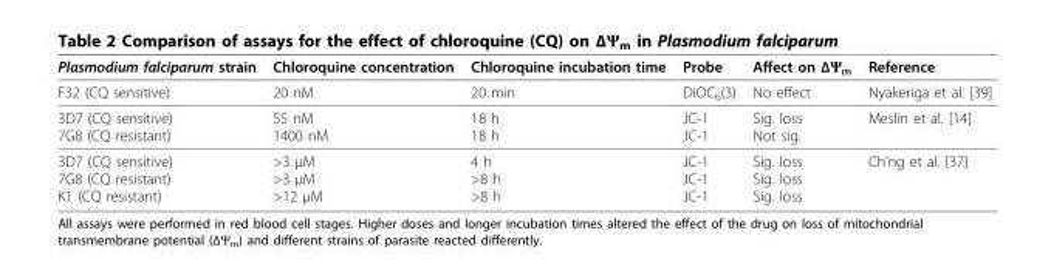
<table><thead><tr><td>Plasmodium falciparum strain</td><td>Chloroquine concentration</td><td>Chloroquine incubation time</td><td>Probe</td><td>Affect on ΔΨ<sub>m</sub></td><td>Reference</td></tr></thead><tbody><tr><td>F32 (CQ sensitive)</td><td>20 nM</td><td>20 min</td><td>DiOC<sub>6</sub>(3)</td><td>No effect</td><td>Nyakeriga et al. [39]</td></tr><tr><td>3D7 (CQ sensitive) 7G8 (CQ resistant)</td><td>55 nM 1400 nM</td><td>18 h 18 h</td><td>JC-1 JC-1</td><td>Sig. loss Not sig.</td><td>Meslin et al. [14]</td></tr><tr><td>3D7 (CQ sensitive) 7G8 (CQ resistant) K1 (CQ resistant)</td><td>&gt;3 μM &gt;3 μM &gt;12 μM</td><td>4 h &gt;8 h &gt;8 h</td><td>JC-1 JC-1 JC-1</td><td>Sig. loss Sig. loss Sig. loss</td><td>Ch’ng et al. [37]</td></tr></tbody></table>